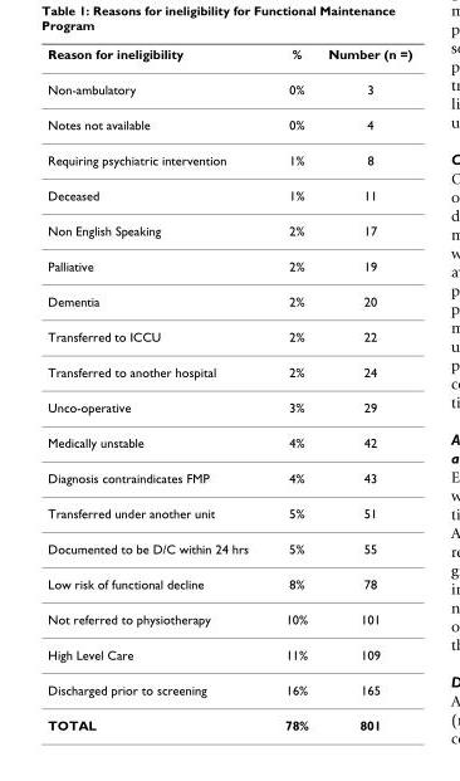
<table><thead><tr><td>Reason for ineligibility</td><td>%</td><td>Number (n =)</td></tr></thead><tbody><tr><td>Non-ambulatory</td><td>0%</td><td>3</td></tr><tr><td>Notes not available</td><td>0%</td><td>4</td></tr><tr><td>Requiring psychiatric intervention</td><td>1%</td><td>8</td></tr><tr><td>Deceased</td><td>1%</td><td>11</td></tr><tr><td>Non English Speaking</td><td>2%</td><td>17</td></tr><tr><td>Palliative</td><td>2%</td><td>19</td></tr><tr><td>Dementia</td><td>2%</td><td>20</td></tr><tr><td>Transferred to ICCU</td><td>2%</td><td>22</td></tr><tr><td>Transferred to another hospital</td><td>2%</td><td>24</td></tr><tr><td>Unco-operative</td><td>3%</td><td>29</td></tr><tr><td>Medically unstable</td><td>4%</td><td>42</td></tr><tr><td>Diagnosis contraindicates FMP</td><td>4%</td><td>43</td></tr><tr><td>Transferred under another unit</td><td>5%</td><td>51</td></tr><tr><td>Documented to be D/C within 24 hrs</td><td>5%</td><td>55</td></tr><tr><td>Low risk of functional decline</td><td>8%</td><td>78</td></tr><tr><td>Not referred to physiotherapy</td><td>10%</td><td>101</td></tr><tr><td>High Level Care</td><td>11%</td><td>109</td></tr><tr><td>Discharged prior to screening</td><td>16%</td><td>165</td></tr><tr><td>TOTAL</td><td>78%</td><td>801</td></tr></tbody></table>